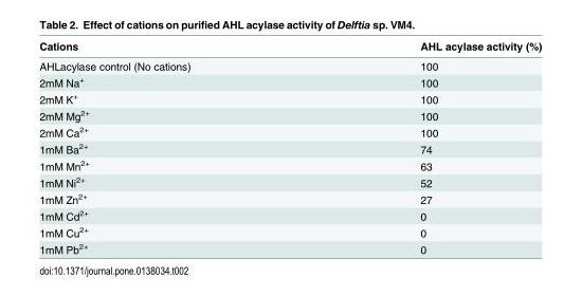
<table><thead><tr><td>Cations</td><td>AHL acylase activity (%)</td></tr></thead><tbody><tr><td>AHLacylase control (No cations)</td><td>100</td></tr><tr><td>2mM Na<sup>+</sup></td><td>100</td></tr><tr><td>2mM K<sup>+</sup></td><td>100</td></tr><tr><td>2mM Mg<sup>2+</sup></td><td>100</td></tr><tr><td>2mM Ca<sup>2+</sup></td><td>100</td></tr><tr><td>1mM Ba<sup>2+</sup></td><td>74</td></tr><tr><td>1mM Mn<sup>2+</sup></td><td>63</td></tr><tr><td>1mM Ni<sup>2+</sup></td><td>52</td></tr><tr><td>1mM Zn<sup>2+</sup></td><td>27</td></tr><tr><td>1mM Cd<sup>2+</sup></td><td>0</td></tr><tr><td>1mM Cu<sup>2+</sup></td><td>0</td></tr><tr><td>1mM Pb<sup>2+</sup></td><td>0</td></tr></tbody></table>